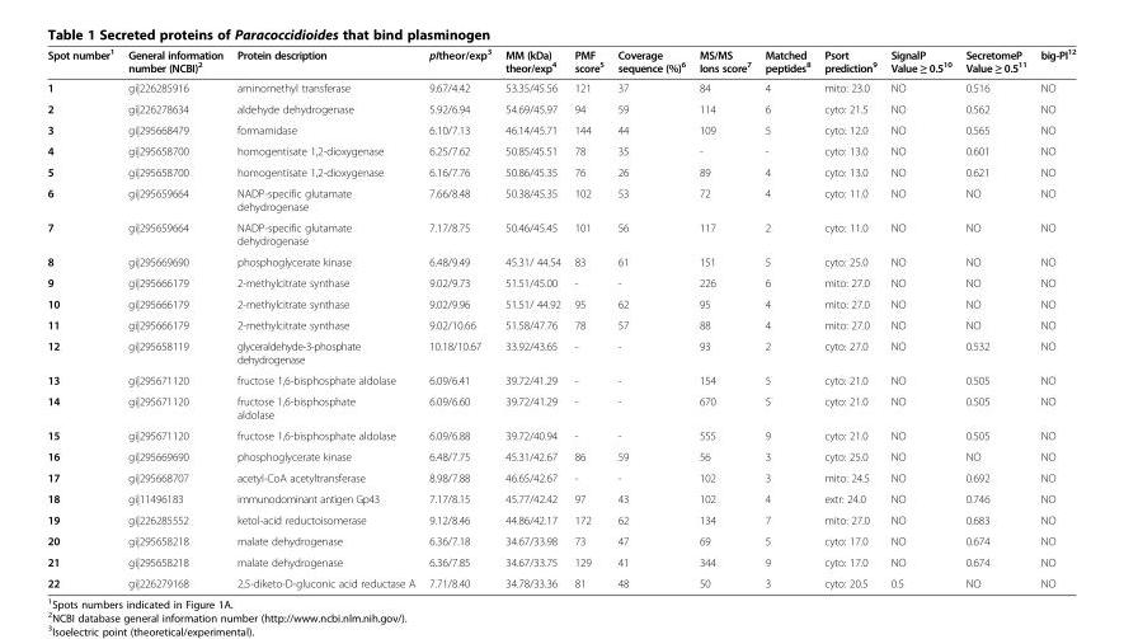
<table><thead><tr><td>Spot number<sup>1</sup></td><td>General information number (NCBI)<sup>2</sup></td><td>Protein description</td><td>pItheor/exp<sup>3</sup></td><td>MM (kDa) theor/exp<sup>4</sup></td><td>PMF score<sup>5</sup></td><td>Coverage sequence (%)<sup>6</sup></td><td>MS/MS Ions score<sup>7</sup></td><td>Matched peptides<sup>8</sup></td><td>Psort prediction<sup>9</sup></td><td>SignalP Value ≥ 0.5<sup>10</sup></td><td>SecretomeP Value ≥ 0.5<sup>11</sup></td><td>big-PI<sup>12</sup></td></tr></thead><tbody><tr><td>1</td><td>gi|226285916</td><td>aminomethyl transferase</td><td>9.67/4.42</td><td>53.35/45.56</td><td>121</td><td>37</td><td>84</td><td>4</td><td>mito: 23.0</td><td>NO</td><td>0.516</td><td>NO</td></tr><tr><td>2</td><td>gi|226278634</td><td>aldehyde dehydrogenase</td><td>5.92/6.94</td><td>54.69/45.97</td><td>94</td><td>59</td><td>114</td><td>6</td><td>cyto: 21.5</td><td>NO</td><td>0.562</td><td>NO</td></tr><tr><td>3</td><td>gi|295668479</td><td>formamidase</td><td>6.10/7.13</td><td>46.14/45.71</td><td>144</td><td>44</td><td>109</td><td>5</td><td>cyto: 12.0</td><td>NO</td><td>0.565</td><td>NO</td></tr><tr><td>4</td><td>gi|295658700</td><td>homogentisate 1,2-dioxygenase</td><td>6.25/7.62</td><td>50.85/45.51</td><td>78</td><td>35</td><td>-</td><td>-</td><td>cyto: 13.0</td><td>NO</td><td>0.601</td><td>NO</td></tr><tr><td>5</td><td>gi|295658700</td><td>homogentisate 1,2-dioxygenase</td><td>6.16/7.76</td><td>50.86/45.35</td><td>76</td><td>26</td><td>89</td><td>4</td><td>cyto: 13.0</td><td>NO</td><td>0.621</td><td>NO</td></tr><tr><td>6</td><td>gi|295659664</td><td>NADP-specific glutamate dehydrogenase</td><td>7.66/8.48</td><td>50.38/45.35</td><td>102</td><td>53</td><td>72</td><td>4</td><td>cyto: 11.0</td><td>NO</td><td>NO</td><td>NO</td></tr><tr><td>7</td><td>gi|295659664</td><td>NADP-specific glutamate dehydrogenase</td><td>7.17/8.75</td><td>50.46/45.45</td><td>101</td><td>56</td><td>117</td><td>2</td><td>cyto: 11.0</td><td>NO</td><td>NO</td><td>NO</td></tr><tr><td>8</td><td>gi|295669690</td><td>phosphoglycerate kinase</td><td>6.48/9.49</td><td>45.31/ 44.54</td><td>83</td><td>61</td><td>151</td><td>5</td><td>cyto: 25.0</td><td>NO</td><td>NO</td><td>NO</td></tr><tr><td>9</td><td>gi|295666179</td><td>2-methylcitrate synthase</td><td>9.02/9.73</td><td>51.51/45.00</td><td>-</td><td>-</td><td>226</td><td>6</td><td>mito: 27.0</td><td>NO</td><td>NO</td><td>NO</td></tr><tr><td>10</td><td>gi|295666179</td><td>2-methylcitrate synthase</td><td>9.02/9.96</td><td>51.51/ 44.92</td><td>95</td><td>62</td><td>95</td><td>4</td><td>mito: 27.0</td><td>NO</td><td>NO</td><td>NO</td></tr><tr><td>11</td><td>gi|295666179</td><td>2-methylcitrate synthase</td><td>9.02/10.66</td><td>51.58/47.76</td><td>78</td><td>57</td><td>88</td><td>4</td><td>mito: 27.0</td><td>NO</td><td>NO</td><td>NO</td></tr><tr><td>12</td><td>gi|295658119</td><td>glyceraldehyde-3-phosphate dehydrogenase</td><td>10.18/10.67</td><td>33.92/43.65</td><td>-</td><td>-</td><td>93</td><td>2</td><td>cyto: 27.0</td><td>NO</td><td>0.532</td><td>NO</td></tr><tr><td>13</td><td>gi|295671120</td><td>fructose 1,6-bisphosphate aldolase</td><td>6.09/6.41</td><td>39.72/41.29</td><td>-</td><td>-</td><td>154</td><td>5</td><td>cyto: 21.0</td><td>NO</td><td>0.505</td><td>NO</td></tr><tr><td>14</td><td>gi|295671120</td><td>fructose 1,6-bisphosphate aldolase</td><td>6.09/6.60</td><td>39.72/41.29</td><td>-</td><td>-</td><td>670</td><td>5</td><td>cyto: 21.0</td><td>NO</td><td>0.505</td><td>NO</td></tr><tr><td>15</td><td>gi|295671120</td><td>fructose 1,6-bisphosphate aldolase</td><td>6.09/6.88</td><td>39.72/40.94</td><td>-</td><td>-</td><td>555</td><td>9</td><td>cyto: 21.0</td><td>NO</td><td>0.505</td><td>NO</td></tr><tr><td>16</td><td>gi|295669690</td><td>phosphoglycerate kinase</td><td>6.48/7.75</td><td>45.31/42.67</td><td>86</td><td>59</td><td>56</td><td>3</td><td>cyto: 25.0</td><td>NO</td><td>NO</td><td>NO</td></tr><tr><td>17</td><td>gi|295668707</td><td>acetyl-CoA acetyltransferase</td><td>8.98/7.88</td><td>46.65/42.67</td><td>-</td><td>-</td><td>102</td><td>3</td><td>mito: 24.5</td><td>NO</td><td>0.692</td><td>NO</td></tr><tr><td>18</td><td>gi|11496183</td><td>immunodominant antigen Gp43</td><td>7.17/8.15</td><td>45.77/42.42</td><td>97</td><td>43</td><td>102</td><td>4</td><td>extr: 24.0</td><td>NO</td><td>0.746</td><td>NO</td></tr><tr><td>19</td><td>gi|226285552</td><td>ketol-acid reductoisomerase</td><td>9.12/8.46</td><td>44.86/42.17</td><td>172</td><td>62</td><td>134</td><td>7</td><td>mito: 27.0</td><td>NO</td><td>0.683</td><td>NO</td></tr><tr><td>20</td><td>gi|295658218</td><td>malate dehydrogenase</td><td>6.36/7.18</td><td>34.67/33.98</td><td>73</td><td>47</td><td>69</td><td>5</td><td>cyto: 17.0</td><td>NO</td><td>0.674</td><td>NO</td></tr><tr><td>21</td><td>gi|295658218</td><td>malate dehydrogenase</td><td>6.36/7.85</td><td>34.67/33.75</td><td>129</td><td>41</td><td>344</td><td>9</td><td>cyto: 17.0</td><td>NO</td><td>0.674</td><td>NO</td></tr><tr><td>22</td><td>gi|226279168</td><td>2,5-diketo-D-gluconic acid reductase A</td><td>7.71/8.40</td><td>34.78/33.36</td><td>81</td><td>48</td><td>50</td><td>3</td><td>cyto: 20.5</td><td>0.5</td><td>NO</td><td>NO</td></tr></tbody></table>